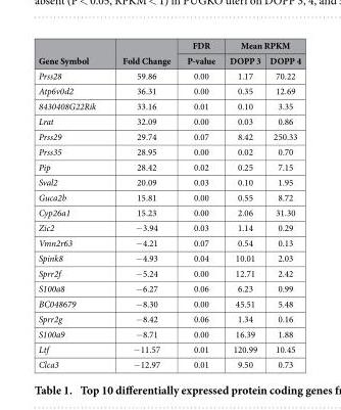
<table><thead><tr><td rowspan="2">Gene Symbol</td><td rowspan="2">Fold Change</td><td rowspan="2">FDR P-value</td><td colspan="2">Mean RPKM</td></tr><tr><td>DOPP 3</td><td>DOPP 4</td></tr></thead><tbody><tr><td>Prss28</td><td>59.86</td><td>0.00</td><td>1.17</td><td>70.22</td></tr><tr><td>Atp6v0d2</td><td>36.31</td><td>0.00</td><td>0.35</td><td>12.69</td></tr><tr><td>8430408G22Rik</td><td>33.16</td><td>0.01</td><td>0.10</td><td>3.35</td></tr><tr><td>Lrat</td><td>32.09</td><td>0.00</td><td>0.03</td><td>0.86</td></tr><tr><td>Prss29</td><td>29.74</td><td>0.07</td><td>8.42</td><td>250.33</td></tr><tr><td>Prss35</td><td>28.95</td><td>0.00</td><td>0.02</td><td>0.70</td></tr><tr><td>Pip</td><td>28.42</td><td>0.02</td><td>0.25</td><td>7.15</td></tr><tr><td>Sval2</td><td>20.09</td><td>0.03</td><td>0.10</td><td>1.95</td></tr><tr><td>Guca2b</td><td>15.81</td><td>0.00</td><td>0.55</td><td>8.72</td></tr><tr><td>Cyp26a1</td><td>15.23</td><td>0.00</td><td>2.06</td><td>31.30</td></tr><tr><td>Zic2</td><td>− 3.94</td><td>0.03</td><td>1.14</td><td>0.29</td></tr><tr><td>Vmn2r63</td><td>− 4.21</td><td>0.07</td><td>0.54</td><td>0.13</td></tr><tr><td>Spink8</td><td>− 4.93</td><td>0.04</td><td>10.01</td><td>2.03</td></tr><tr><td>Sprr2f</td><td>− 5.24</td><td>0.00</td><td>12.71</td><td>2.42</td></tr><tr><td>S100a8</td><td>− 6.27</td><td>0.06</td><td>6.23</td><td>0.99</td></tr><tr><td>BC048679</td><td>− 8.30</td><td>0.00</td><td>45.51</td><td>5.48</td></tr><tr><td>Sprr2g</td><td>− 8.42</td><td>0.06</td><td>1.34</td><td>0.16</td></tr><tr><td>S100a9</td><td>− 8.71</td><td>0.00</td><td>16.39</td><td>1.88</td></tr><tr><td>Ltf</td><td>− 11.57</td><td>0.01</td><td>120.99</td><td>10.45</td></tr><tr><td>Clca3</td><td>− 12.97</td><td>0.01</td><td>9.50</td><td>0.73</td></tr></tbody></table>